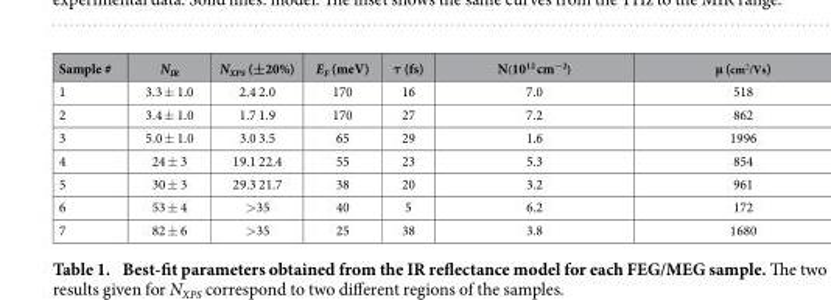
<table><thead><tr><td>Sample #</td><td>N<sub>IR</sub></td><td>N<sub>XPS</sub> (±20%)</td><td>E<sub>F</sub> (meV)</td><td>τ (fs)</td><td>N(10<sup>12</sup> cm<sup>−2</sup>)</td><td>μ (cm<sup>2</sup>/Vs)</td></tr></thead><tbody><tr><td>1</td><td>3.3 ± 1.0</td><td>2.4 2.0</td><td>170</td><td>16</td><td>7.0</td><td>518</td></tr><tr><td>2</td><td>3.4 ± 1.0</td><td>1.7 1.9</td><td>170</td><td>27</td><td>7.2</td><td>862</td></tr><tr><td>3</td><td>5.0 ± 1.0</td><td>3.0 3.5</td><td>65</td><td>29</td><td>1.6</td><td>1996</td></tr><tr><td>4</td><td>24 ± 3</td><td>19.1 22.4</td><td>55</td><td>23</td><td>5.3</td><td>854</td></tr><tr><td>5</td><td>30 ± 3</td><td>29.3 21.7</td><td>38</td><td>20</td><td>3.2</td><td>961</td></tr><tr><td>6</td><td>53 ± 4</td><td>&gt;35</td><td>40</td><td>5</td><td>6.2</td><td>172</td></tr><tr><td>7</td><td>82 ± 6</td><td>&gt;35</td><td>25</td><td>38</td><td>3.8</td><td>1680</td></tr></tbody></table>